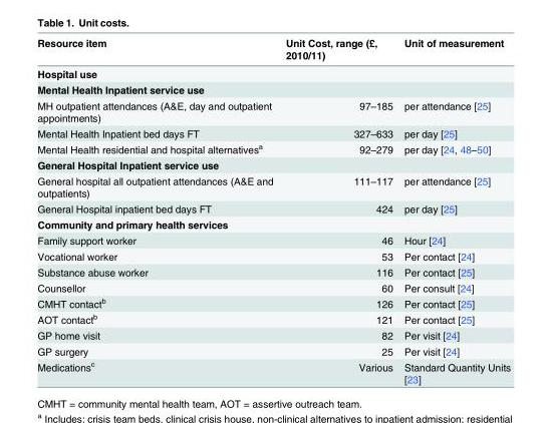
<table><thead><tr><td>Resource item</td><td>Unit Cost, range (£, 2010/11)</td><td>Unit of measurement</td></tr></thead><tbody><tr><td colspan="3">Hospital use</td></tr><tr><td colspan="3">Mental Health Inpatient service use</td></tr><tr><td>MH outpatient attendances (A&amp;E, day and outpatient appointments)</td><td>97–185</td><td>per attendance [25]</td></tr><tr><td>Mental Health Inpatient bed days FT</td><td>327–633</td><td>per day [25]</td></tr><tr><td>Mental Health residential and hospital alternatives<sup>a</sup></td><td>92–279</td><td>per day [24, 48–50]</td></tr><tr><td colspan="3">General Hospital Inpatient service use</td></tr><tr><td>General hospital all outpatient attendances (A&amp;E and outpatients)</td><td>111–117</td><td>per attendance [25]</td></tr><tr><td>General Hospital inpatient bed days FT</td><td>424</td><td>per day [25]</td></tr><tr><td colspan="3">Community and primary health services</td></tr><tr><td>Family support worker</td><td>46</td><td>Hour [24]</td></tr><tr><td>Vocational worker</td><td>53</td><td>Per contact [24]</td></tr><tr><td>Substance abuse worker</td><td>116</td><td>Per contact [25]</td></tr><tr><td>Counsellor</td><td>60</td><td>Per consult [24]</td></tr><tr><td>CMHT contact<sup>b</sup></td><td>126</td><td>Per contact [25]</td></tr><tr><td>AOT contact<sup>b</sup></td><td>121</td><td>Per contact [25]</td></tr><tr><td>GP home visit</td><td>82</td><td>Per visit [24]</td></tr><tr><td>GP surgery</td><td>25</td><td>Per visit [24]</td></tr><tr><td>Medications<sup>c</sup></td><td>Various</td><td>Standard Quantity Units [23]</td></tr></tbody></table>